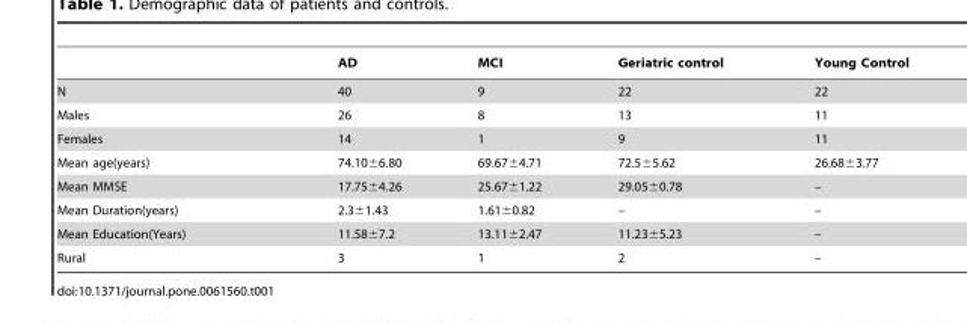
<table><thead><tr><td></td><td>AD</td><td>MCI</td><td>Geriatric control</td><td>Young Control</td></tr></thead><tbody><tr><td>N</td><td>40</td><td>9</td><td>22</td><td>22</td></tr><tr><td>Males</td><td>26</td><td>8</td><td>13</td><td>11</td></tr><tr><td>Females</td><td>14</td><td>1</td><td>9</td><td>11</td></tr><tr><td>Mean age(years)</td><td>74.10±6.80</td><td>69.67±4.71</td><td>72.5±5.62</td><td>26.68±3.77</td></tr><tr><td>Mean MMSE</td><td>17.75±4.26</td><td>25.67±1.22</td><td>29.05±0.78</td><td>–</td></tr><tr><td>Mean Duration(years)</td><td>2.3±1.43</td><td>1.61±0.82</td><td>–</td><td>–</td></tr><tr><td>Mean Education(Years)</td><td>11.58±7.2</td><td>13.11±2.47</td><td>11.23±5.23</td><td>–</td></tr><tr><td>Rural</td><td>3</td><td>1</td><td>2</td><td>–</td></tr></tbody></table>